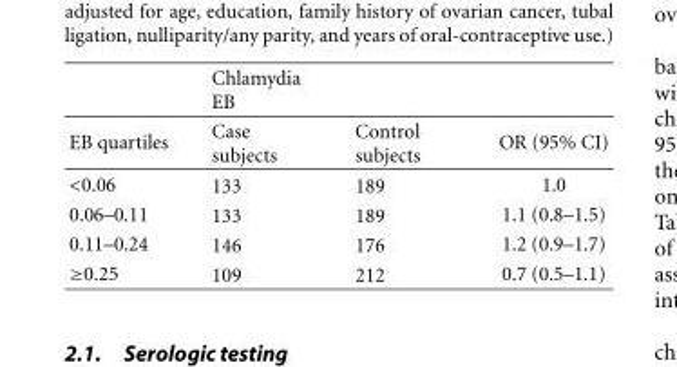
<table><thead><tr><td rowspan="2">EB quartiles</td><td rowspan="2">Chlamydia EB Case subjects</td><td rowspan="2">Control subjects</td><td rowspan="2">OR (95% CI)</td></tr><tr></tr></thead><tbody><tr><td>&lt;0.06</td><td>133</td><td>189</td><td>1.0</td></tr><tr><td>0.06–0.11</td><td>133</td><td>189</td><td>1.1 (0.8–1.5)</td></tr><tr><td>0.11–0.24</td><td>146</td><td>176</td><td>1.2 (0.9–1.7)</td></tr><tr><td>≥0.25</td><td>109</td><td>212</td><td>0.7 (0.5–1.1)</td></tr></tbody></table>